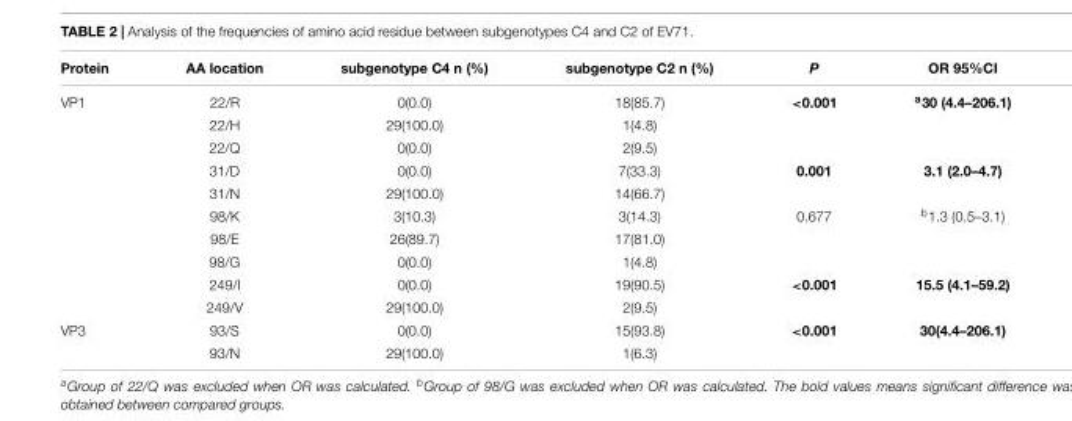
<table><thead><tr><td>Protein</td><td>AA location</td><td>subgenotype C4 n (%)</td><td>subgenotype C2 n (%)</td><td>P</td><td>OR 95%CI</td></tr></thead><tbody><tr><td rowspan="10">VP1</td><td>22/R</td><td>0(0.0)</td><td>18(85.7)</td><td>&lt;0.001</td><td><sup>a</sup>30 (4.4–206.1)</td></tr><tr><td>22/H</td><td>29(100.0)</td><td>1(4.8)</td><td></td><td></td></tr><tr><td>22/Q</td><td>0(0.0)</td><td>2(9.5)</td><td></td><td></td></tr><tr><td>31/D</td><td>0(0.0)</td><td>7(33.3)</td><td>0.001</td><td>3.1 (2.0–4.7)</td></tr><tr><td>31/N</td><td>29(100.0)</td><td>14(66.7)</td><td></td><td></td></tr><tr><td>98/K</td><td>3(10.3)</td><td>3(14.3)</td><td>0.677</td><td><sup>b</sup>1.3 (0.5–3.1)</td></tr><tr><td>98/E</td><td>26(89.7)</td><td>17(81.0)</td><td></td><td></td></tr><tr><td>98/G</td><td>0(0.0)</td><td>1(4.8)</td><td></td><td></td></tr><tr><td>249/I</td><td>0(0.0)</td><td>19(90.5)</td><td>&lt;0.001</td><td>15.5 (4.1–59.2)</td></tr><tr><td>249/V</td><td>29(100.0)</td><td>2(9.5)</td><td></td><td></td></tr><tr><td rowspan="2">VP3</td><td>93/S</td><td>0(0.0)</td><td>15(93.8)</td><td>&lt;0.001</td><td>30(4.4–206.1)</td></tr><tr><td>93/N</td><td>29(100.0)</td><td>1(6.3)</td><td></td><td></td></tr></tbody></table>